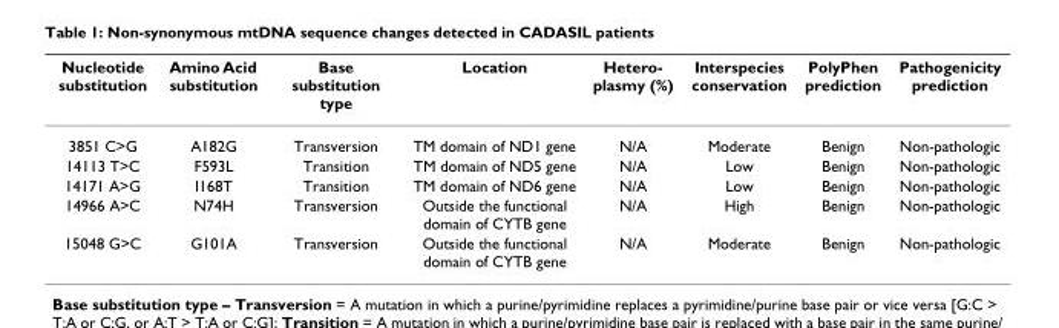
<table><thead><tr><td>Nucleotide substitution</td><td>Amino Acid substitution</td><td>Base substitution type</td><td>Location</td><td>Hetero- plasmy (%)</td><td>Interspecies conservation</td><td>PolyPhen prediction</td><td>Pathogenicity prediction</td></tr></thead><tbody><tr><td>3851 C&gt;G</td><td>A182G</td><td>Transversion</td><td>TM domain of ND1 gene</td><td>N/A</td><td>Moderate</td><td>Benign</td><td>Non-pathologic</td></tr><tr><td>14113 T&gt;C</td><td>F593L</td><td>Transition</td><td>TM domain of ND5 gene</td><td>N/A</td><td>Low</td><td>Benign</td><td>Non-pathologic</td></tr><tr><td>14171 A&gt;G</td><td>I168T</td><td>Transition</td><td>TM domain of ND6 gene</td><td>N/A</td><td>Low</td><td>Benign</td><td>Non-pathologic</td></tr><tr><td>14966 A&gt;C</td><td>N74H</td><td>Transversion</td><td>Outside the functional domain of CYTB gene</td><td>N/A</td><td>High</td><td>Benign</td><td>Non-pathologic</td></tr><tr><td>15048 G&gt;C</td><td>G101A</td><td>Transversion</td><td>Outside the functional domain of CYTB gene</td><td>N/A</td><td>Moderate</td><td>Benign</td><td>Non-pathologic</td></tr></tbody></table>